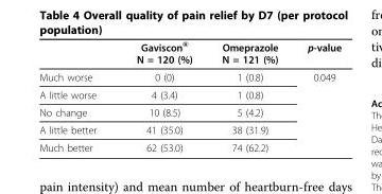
<table><thead><tr><td></td><td>Gaviscon<sup>®</sup> N = 120 (%)</td><td>Omeprazole N = 121 (%)</td><td>p-value</td></tr></thead><tbody><tr><td>Much worse</td><td>0 (0)</td><td>1 (0.8)</td><td>0.049</td></tr><tr><td>A little worse</td><td>4 (3.4)</td><td>1 (0.8)</td><td></td></tr><tr><td>No change</td><td>10 (8.5)</td><td>5 (4.2)</td><td></td></tr><tr><td>A little better</td><td>41 (35.0)</td><td>38 (31.9)</td><td></td></tr><tr><td>Much better</td><td>62 (53.0)</td><td>74 (62.2)</td><td></td></tr></tbody></table>